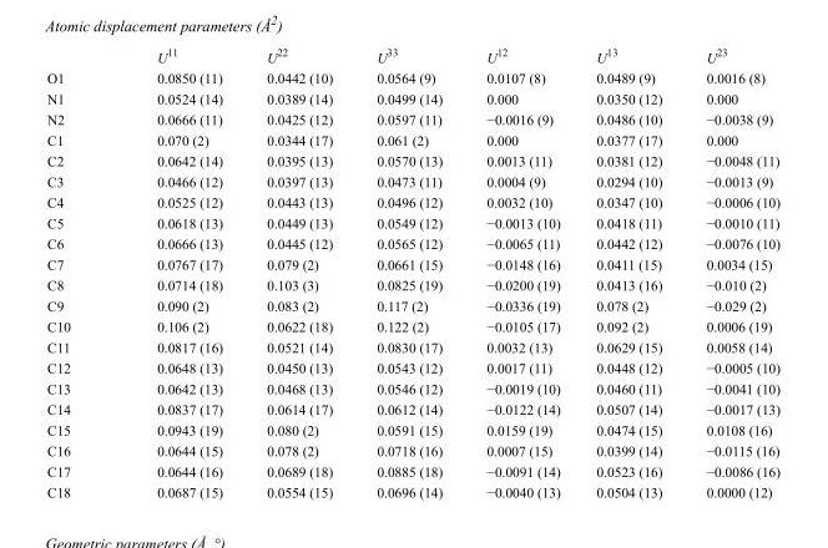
<table><thead><tr><td></td><td>U<sup>11</sup></td><td>U<sup>22</sup></td><td>U<sup>33</sup></td><td>U<sup>12</sup></td><td>U<sup>13</sup></td><td>U<sup>23</sup></td></tr></thead><tbody><tr><td>O1</td><td>0.0850 (11)</td><td>0.0442 (10)</td><td>0.0564 (9)</td><td>0.0107 (8)</td><td>0.0489 (9)</td><td>0.0016 (8)</td></tr><tr><td>N1</td><td>0.0524 (14)</td><td>0.0389 (14)</td><td>0.0499 (14)</td><td>0.000</td><td>0.0350 (12)</td><td>0.000</td></tr><tr><td>N2</td><td>0.0666 (11)</td><td>0.0425 (12)</td><td>0.0597 (11)</td><td>−0.0016 (9)</td><td>0.0486 (10)</td><td>−0.0038 (9)</td></tr><tr><td>C1</td><td>0.070 (2)</td><td>0.0344 (17)</td><td>0.061 (2)</td><td>0.000</td><td>0.0377 (17)</td><td>0.000</td></tr><tr><td>C2</td><td>0.0642 (14)</td><td>0.0395 (13)</td><td>0.0570 (13)</td><td>0.0013 (11)</td><td>0.0381 (12)</td><td>−0.0048 (11)</td></tr><tr><td>C3</td><td>0.0466 (12)</td><td>0.0397 (13)</td><td>0.0473 (11)</td><td>0.0004 (9)</td><td>0.0294 (10)</td><td>−0.0013 (9)</td></tr><tr><td>C4</td><td>0.0525 (12)</td><td>0.0443 (13)</td><td>0.0496 (12)</td><td>0.0032 (10)</td><td>0.0347 (10)</td><td>−0.0006 (10)</td></tr><tr><td>C5</td><td>0.0618 (13)</td><td>0.0449 (13)</td><td>0.0549 (12)</td><td>−0.0013 (10)</td><td>0.0418 (11)</td><td>−0.0010 (11)</td></tr><tr><td>C6</td><td>0.0666 (13)</td><td>0.0445 (12)</td><td>0.0565 (12)</td><td>−0.0065 (11)</td><td>0.0442 (12)</td><td>−0.0076 (10)</td></tr><tr><td>C7</td><td>0.0767 (17)</td><td>0.079 (2)</td><td>0.0661 (15)</td><td>−0.0148 (16)</td><td>0.0411 (15)</td><td>0.0034 (15)</td></tr><tr><td>C8</td><td>0.0714 (18)</td><td>0.103 (3)</td><td>0.0825 (19)</td><td>−0.0200 (19)</td><td>0.0413 (16)</td><td>−0.010 (2)</td></tr><tr><td>C9</td><td>0.090 (2)</td><td>0.083 (2)</td><td>0.117 (2)</td><td>−0.0336 (19)</td><td>0.078 (2)</td><td>−0.029 (2)</td></tr><tr><td>C10</td><td>0.106 (2)</td><td>0.0622 (18)</td><td>0.122 (2)</td><td>−0.0105 (17)</td><td>0.092 (2)</td><td>0.0006 (19)</td></tr><tr><td>C11</td><td>0.0817 (16)</td><td>0.0521 (14)</td><td>0.0830 (17)</td><td>0.0032 (13)</td><td>0.0629 (15)</td><td>0.0058 (14)</td></tr><tr><td>C12</td><td>0.0648 (13)</td><td>0.0450 (13)</td><td>0.0543 (12)</td><td>0.0017 (11)</td><td>0.0448 (12)</td><td>−0.0005 (10)</td></tr><tr><td>C13</td><td>0.0642 (13)</td><td>0.0468 (13)</td><td>0.0546 (12)</td><td>−0.0019 (10)</td><td>0.0460 (11)</td><td>−0.0041 (10)</td></tr><tr><td>C14</td><td>0.0837 (17)</td><td>0.0614 (17)</td><td>0.0612 (14)</td><td>−0.0122 (14)</td><td>0.0507 (14)</td><td>−0.0017 (13)</td></tr><tr><td>C15</td><td>0.0943 (19)</td><td>0.080 (2)</td><td>0.0591 (15)</td><td>0.0159 (19)</td><td>0.0474 (15)</td><td>0.0108 (16)</td></tr><tr><td>C16</td><td>0.0644 (15)</td><td>0.078 (2)</td><td>0.0718 (16)</td><td>0.0007 (15)</td><td>0.0399 (14)</td><td>−0.0115 (16)</td></tr><tr><td>C17</td><td>0.0644 (16)</td><td>0.0689 (18)</td><td>0.0885 (18)</td><td>−0.0091 (14)</td><td>0.0523 (16)</td><td>−0.0086 (16)</td></tr><tr><td>C18</td><td>0.0687 (15)</td><td>0.0554 (15)</td><td>0.0696 (14)</td><td>−0.0040 (13)</td><td>0.0504 (13)</td><td>0.0000 (12)</td></tr></tbody></table>